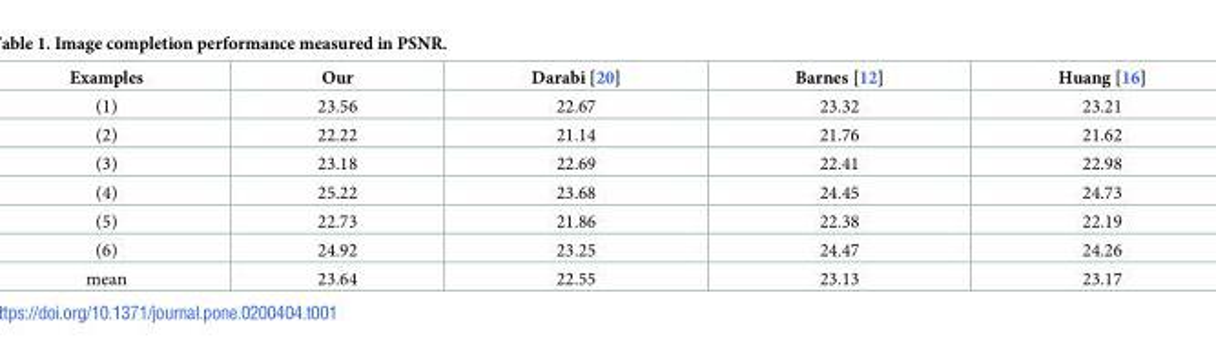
<table><thead><tr><td>Examples</td><td>Our</td><td>Darabi [20]</td><td>Barnes [12]</td><td>Huang [16]</td></tr></thead><tbody><tr><td>(1)</td><td>23.56</td><td>22.67</td><td>23.32</td><td>23.21</td></tr><tr><td>(2)</td><td>22.22</td><td>21.14</td><td>21.76</td><td>21.62</td></tr><tr><td>(3)</td><td>23.18</td><td>22.69</td><td>22.41</td><td>22.98</td></tr><tr><td>(4)</td><td>25.22</td><td>23.68</td><td>24.45</td><td>24.73</td></tr><tr><td>(5)</td><td>22.73</td><td>21.86</td><td>22.38</td><td>22.19</td></tr><tr><td>(6)</td><td>24.92</td><td>23.25</td><td>24.47</td><td>24.26</td></tr><tr><td>mean</td><td>23.64</td><td>22.55</td><td>23.13</td><td>23.17</td></tr></tbody></table>